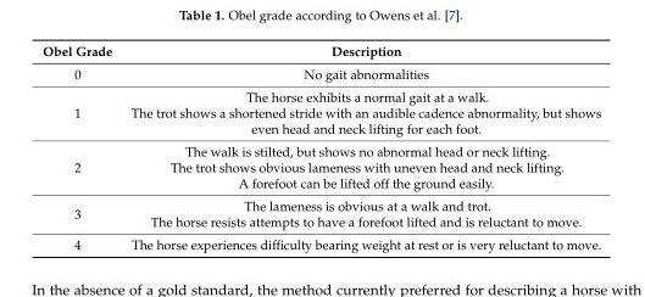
<table><thead><tr><td>Obel Grade</td><td>Description</td></tr></thead><tbody><tr><td>0</td><td>No gait abnormalities</td></tr><tr><td>1</td><td>The horse exhibits a normal gait at a walk. The trot shows a shortened stride with an audible cadence abnormality, but shows even head and neck lifting for each foot.</td></tr><tr><td>2</td><td>The walk is stilted, but shows no abnormal head or neck lifting. The trot shows obvious lameness with uneven head and neck lifting. A forefoot can be lifted off the ground easily.</td></tr><tr><td>3</td><td>The lameness is obvious at a walk and trot. The horse resists attempts to have a forefoot lifted and is reluctant to move.</td></tr><tr><td>4</td><td>The horse experiences difficulty bearing weight at rest or is very reluctant to move.</td></tr></tbody></table>